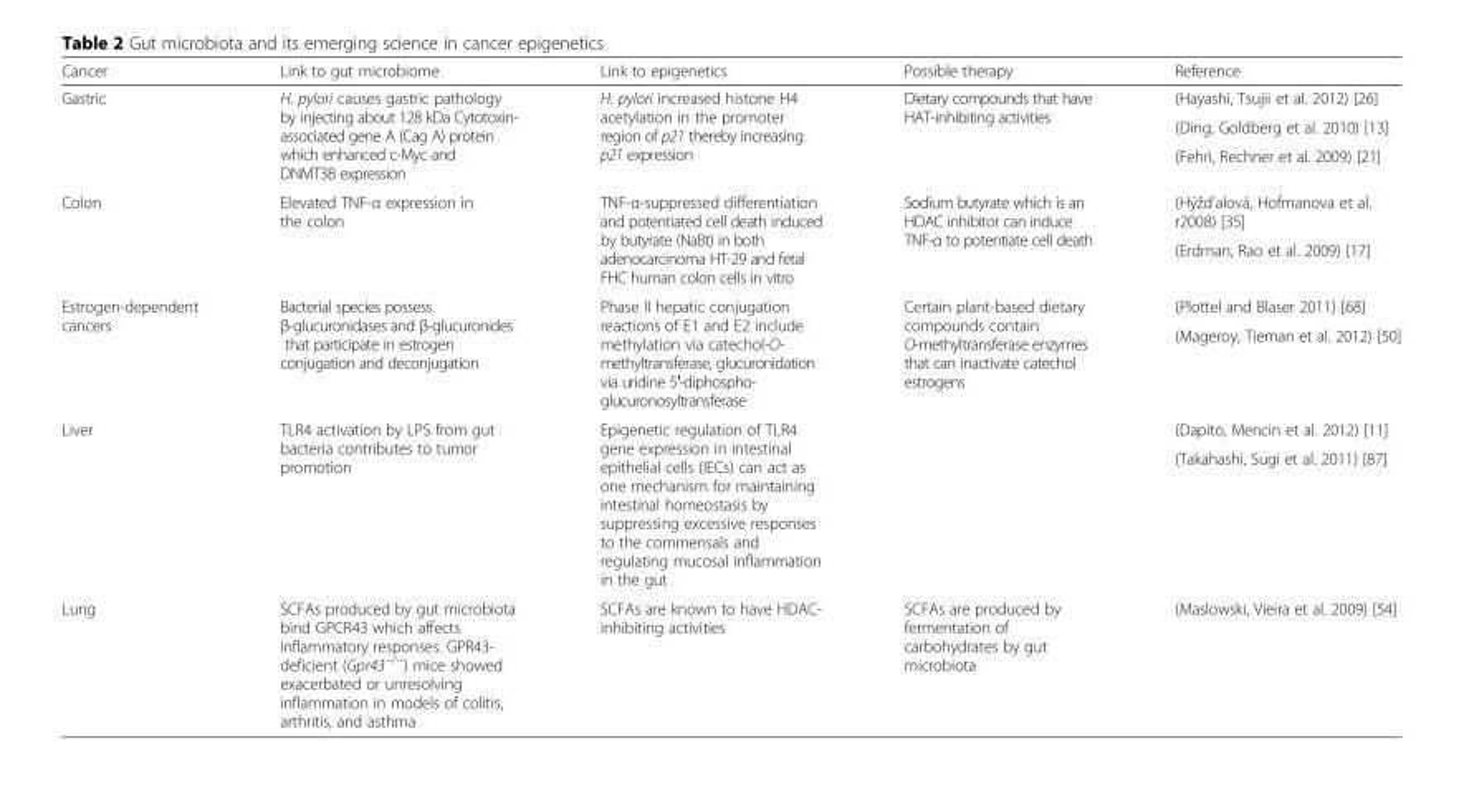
<table><thead><tr><td>Cancer</td><td>Link to gut microbiome</td><td>Link to epigenetics</td><td>Possible therapy</td><td>Reference</td></tr></thead><tbody><tr><td rowspan="3">Gastric</td><td rowspan="3">H. pylori causes gastric pathology by injecting about 128 kDa Cytotoxin- associated gene A (Cag A) protein which enhanced c-Myc and DNMT3B expression</td><td rowspan="3">H. pylori increased histone H4 acetylation in the promoter region of p21 thereby increasing p21 expression</td><td rowspan="3">Dietary compounds that have HAT-inhibiting activities</td><td>(Hayashi, Tsujii et al. 2012) [26]</td></tr><tr><td>(Ding, Goldberg et al. 2010) [13]</td></tr><tr><td>(Fehri, Rechner et al. 2009) [21]</td></tr><tr><td rowspan="2">Colon</td><td rowspan="2">Elevated TNF-α expression in the colon</td><td rowspan="2">TNF-α-suppressed differentiation and potentiated cell death induced by butyrate (NaBt) in both adenocarcinoma HT-29 and fetal FHC human colon cells in vitro</td><td rowspan="2">Sodium butyrate which is an HDAC inhibitor can induce TNF-α to potentiate cell death</td><td>(Hýžd’alová, Hofmanova et al. r2008) [35]</td></tr><tr><td>(Erdman, Rao et al. 2009) [17]</td></tr><tr><td rowspan="2">Estrogen-dependent cancers</td><td rowspan="2">Bacterial species possess β-glucuronidases and β-glucuronides that participate in estrogen conjugation and deconjugation</td><td rowspan="2">Phase II hepatic conjugation reactions of E1 and E2 include methylation via catechol-O- methyltransferase, glucuronidation via uridine 5′-diphospho- glucuronosyltransferase</td><td rowspan="2">Certain plant-based dietary compounds contain O-methyltransferase enzymes that can inactivate catechol estrogens</td><td>(Plottel and Blaser 2011) [68]</td></tr><tr><td>(Mageroy, Tieman et al. 2012) [50]</td></tr><tr><td rowspan="2">Liver</td><td rowspan="2">TLR4 activation by LPS from gut bacteria contributes to tumor promotion</td><td rowspan="2">Epigenetic regulation of TLR4 gene expression in intestinal epithelial cells (IECs) can act as one mechanism for maintaining intestinal homeostasis by suppressing excessive responses to the commensals and regulating mucosal inflammation in the gut</td><td rowspan="2"></td><td>(Dapito, Mencin et al. 2012) [11]</td></tr><tr><td>(Takahashi, Sugi et al. 2011) [87]</td></tr><tr><td>Lung</td><td>SCFAs produced by gut microbiota bind GPCR43 which affects inflammatory responses. GPR43- deficient (Gpr43<sup>−/−</sup>) mice showed exacerbated or unresolving inflammation in models of colitis, arthritis, and asthma</td><td>SCFAs are known to have HDAC- inhibiting activities</td><td>SCFAs are produced by fermentation of carbohydrates by gut microbiota</td><td>(Maslowski, Vieira et al. 2009) [54]</td></tr></tbody></table>